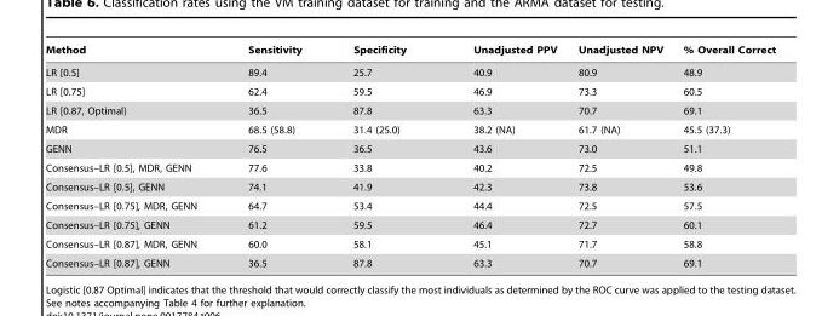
<table><thead><tr><td>Method</td><td>Sensitivity</td><td>Specificity</td><td>Unadjusted PPV</td><td>Unadjusted NPV</td><td>% Overall Correct</td></tr></thead><tbody><tr><td>LR [0.5]</td><td>89.4</td><td>25.7</td><td>40.9</td><td>80.9</td><td>48.9</td></tr><tr><td>LR [0.75]</td><td>62.4</td><td>59.5</td><td>46.9</td><td>73.3</td><td>60.5</td></tr><tr><td>LR [0.87, Optimal)</td><td>36.5</td><td>87.8</td><td>63.3</td><td>70.7</td><td>69.1</td></tr><tr><td>MDR</td><td>68.5 (58.8)</td><td>31.4 (25.0)</td><td>38.2 (NA)</td><td>61.7 (NA)</td><td>45.5 (37.3)</td></tr><tr><td>GENN</td><td>76.5</td><td>36.5</td><td>43.6</td><td>73.0</td><td>51.1</td></tr><tr><td>Consensus–LR [0.5], MDR, GENN</td><td>77.6</td><td>33.8</td><td>40.2</td><td>72.5</td><td>49.8</td></tr><tr><td>Consensus–LR [0.5], GENN</td><td>74.1</td><td>41.9</td><td>42.3</td><td>73.8</td><td>53.6</td></tr><tr><td>Consensus–LR [0.75], MDR, GENN</td><td>64.7</td><td>53.4</td><td>44.4</td><td>72.5</td><td>57.5</td></tr><tr><td>Consensus–LR [0.75], GENN</td><td>61.2</td><td>59.5</td><td>46.4</td><td>72.7</td><td>60.1</td></tr><tr><td>Consensus–LR [0.87], MDR, GENN</td><td>60.0</td><td>58.1</td><td>45.1</td><td>71.7</td><td>58.8</td></tr><tr><td>Consensus–LR [0.87], GENN</td><td>36.5</td><td>87.8</td><td>63.3</td><td>70.7</td><td>69.1</td></tr></tbody></table>